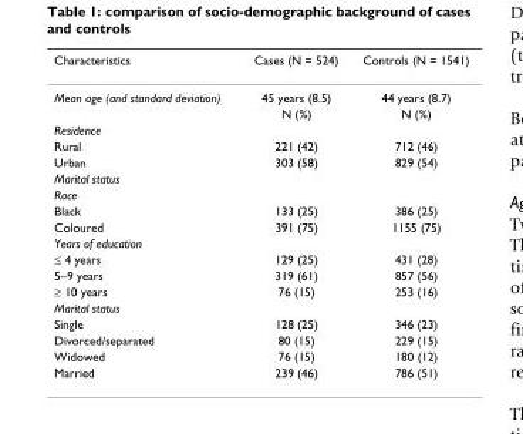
<table><thead><tr><td>Characteristics</td><td>Cases (N = 524)</td><td>Controls (N = 1541)</td></tr></thead><tbody><tr><td rowspan="2">Mean age (and standard deviation)</td><td>45 years (8.5)</td><td>44 years (8.7)</td></tr><tr><td>N (%)</td><td>N (%)</td></tr><tr><td colspan="3">Residence</td></tr><tr><td>Rural</td><td>221 (42)</td><td>712 (46)</td></tr><tr><td>Urban</td><td>303 (58)</td><td>829 (54)</td></tr><tr><td colspan="3">Marital status</td></tr><tr><td colspan="3">Race</td></tr><tr><td>Black</td><td>133 (25)</td><td>386 (25)</td></tr><tr><td>Coloured</td><td>391 (75)</td><td>1155 (75)</td></tr><tr><td colspan="3">Years of education</td></tr><tr><td>≤ 4 years</td><td>129 (25)</td><td>431 (28)</td></tr><tr><td>5–9 years</td><td>319 (61)</td><td>857 (56)</td></tr><tr><td>≥ 10 years</td><td>76 (15)</td><td>253 (16)</td></tr><tr><td colspan="3">Marital status</td></tr><tr><td>Single</td><td>128 (25)</td><td>346 (23)</td></tr><tr><td>Divorced/separated</td><td>80 (15)</td><td>229 (15)</td></tr><tr><td>Widowed</td><td>76 (15)</td><td>180 (12)</td></tr><tr><td>Married</td><td>239 (46)</td><td>786 (51)</td></tr></tbody></table>